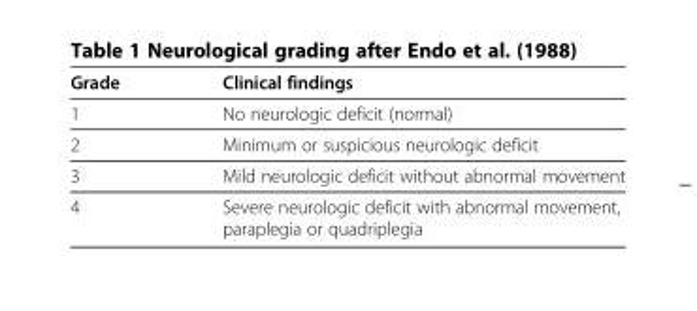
<table><thead><tr><td>Grade</td><td>Clinical findings</td></tr></thead><tbody><tr><td>1</td><td>No neurologic deficit (normal)</td></tr><tr><td>2</td><td>Minimum or suspicious neurologic deficit</td></tr><tr><td>3</td><td>Mild neurologic deficit without abnormal movement</td></tr><tr><td>4</td><td>Severe neurologic deficit with abnormal movement, paraplegia or quadriplegia</td></tr></tbody></table>